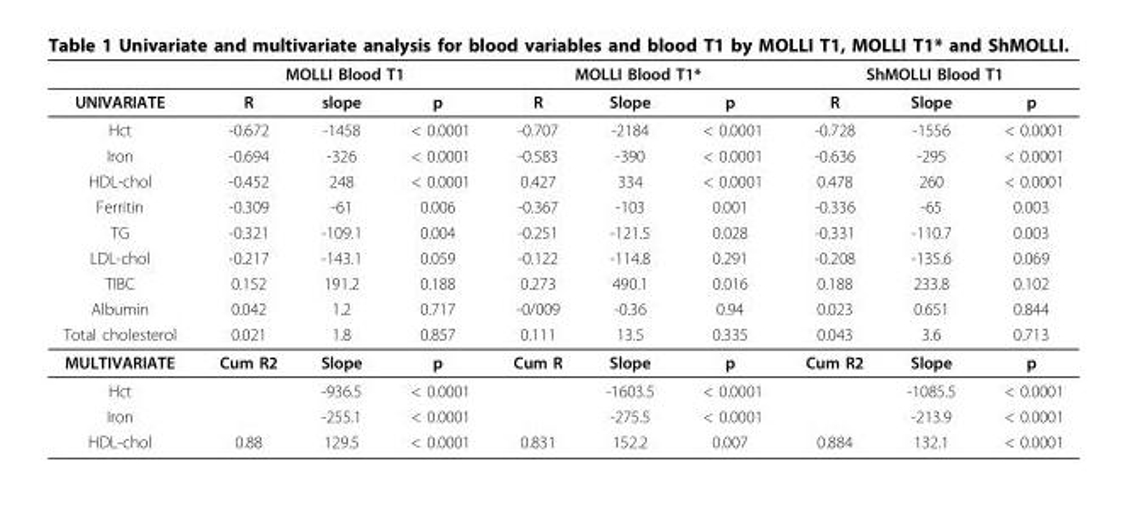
<table><thead><tr><td rowspan="2">UNIVARIATE</td><td colspan="3">MOLLI Blood T1</td><td colspan="3">MOLLI Blood T1*</td><td colspan="3">ShMOLLI Blood T1</td></tr><tr><td>R</td><td>slope</td><td>p</td><td>R</td><td>Slope</td><td>p</td><td>R</td><td>Slope</td><td>p</td></tr></thead><tbody><tr><td>Hct</td><td>-0.672</td><td>-1458</td><td>&lt; 0.0001</td><td>-0.707</td><td>-2184</td><td>&lt; 0.0001</td><td>-0.728</td><td>-1556</td><td>&lt; 0.0001</td></tr><tr><td>Iron</td><td>-0.694</td><td>-326</td><td>&lt; 0.0001</td><td>-0.583</td><td>-390</td><td>&lt; 0.0001</td><td>-0.636</td><td>-295</td><td>&lt; 0.0001</td></tr><tr><td>HDL-chol</td><td>-0.452</td><td>248</td><td>&lt; 0.0001</td><td>0.427</td><td>334</td><td>&lt; 0.0001</td><td>0.478</td><td>260</td><td>&lt; 0.0001</td></tr><tr><td>Ferritin</td><td>-0.309</td><td>-61</td><td>0.006</td><td>-0.367</td><td>-103</td><td>0.001</td><td>-0.336</td><td>-65</td><td>0.003</td></tr><tr><td>TG</td><td>-0.321</td><td>-109.1</td><td>0.004</td><td>-0.251</td><td>-121.5</td><td>0.028</td><td>-0.331</td><td>-110.7</td><td>0.003</td></tr><tr><td>LDL-chol</td><td>-0.217</td><td>-143.1</td><td>0.059</td><td>-0.122</td><td>-114.8</td><td>0.291</td><td>-0.208</td><td>-135.6</td><td>0.069</td></tr><tr><td>TIBC</td><td>0.152</td><td>191.2</td><td>0.188</td><td>0.273</td><td>490.1</td><td>0.016</td><td>0.188</td><td>233.8</td><td>0.102</td></tr><tr><td>Albumin</td><td>0.042</td><td>1.2</td><td>0.717</td><td>-0/009</td><td>-0.36</td><td>0.94</td><td>0.023</td><td>0.651</td><td>0.844</td></tr><tr><td>Total cholesterol</td><td>0.021</td><td>1.8</td><td>0.857</td><td>0.111</td><td>13.5</td><td>0.335</td><td>0.043</td><td>3.6</td><td>0.713</td></tr><tr><td>MULTIVARIATE</td><td>Cum R2</td><td>Slope</td><td>p</td><td>Cum R</td><td>Slope</td><td>p</td><td>Cum R2</td><td>Slope</td><td>p</td></tr><tr><td>Hct</td><td></td><td>-936.5</td><td>&lt; 0.0001</td><td></td><td>-1603.5</td><td>&lt; 0.0001</td><td></td><td>-1085.5</td><td>&lt; 0.0001</td></tr><tr><td>Iron</td><td></td><td>-255.1</td><td>&lt; 0.0001</td><td></td><td>-275.5</td><td>&lt; 0.0001</td><td></td><td>-213.9</td><td>&lt; 0.0001</td></tr><tr><td>HDL-chol</td><td>0.88</td><td>129.5</td><td>&lt; 0.0001</td><td>0.831</td><td>152.2</td><td>0.007</td><td>0.884</td><td>132.1</td><td>&lt; 0.0001</td></tr></tbody></table>